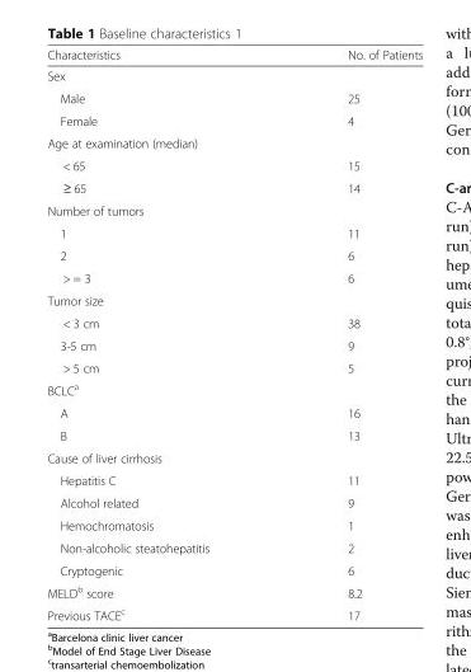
<table><thead><tr><td>Characteristics</td><td>No. of Patients</td></tr></thead><tbody><tr><td colspan="2">Sex</td></tr><tr><td>Male</td><td>25</td></tr><tr><td>Female</td><td>4</td></tr><tr><td colspan="2">Age at examination (median)</td></tr><tr><td>&lt; 65</td><td>15</td></tr><tr><td>≥ 65</td><td>14</td></tr><tr><td colspan="2">Number of tumors</td></tr><tr><td>1</td><td>11</td></tr><tr><td>2</td><td>6</td></tr><tr><td>&gt; = 3</td><td>6</td></tr><tr><td colspan="2">Tumor size</td></tr><tr><td>&lt; 3 cm</td><td>38</td></tr><tr><td>3-5 cm</td><td>9</td></tr><tr><td>&gt; 5 cm</td><td>5</td></tr><tr><td colspan="2">BCLC<sup>a</sup></td></tr><tr><td>A</td><td>16</td></tr><tr><td>B</td><td>13</td></tr><tr><td colspan="2">Cause of liver cirrhosis</td></tr><tr><td>Hepatitis C</td><td>11</td></tr><tr><td>Alcohol related</td><td>9</td></tr><tr><td>Hemochromatosis</td><td>1</td></tr><tr><td>Non-alcoholic steatohepatitis</td><td>2</td></tr><tr><td>Cryptogenic</td><td>6</td></tr><tr><td>MELD<sup>b</sup> score</td><td>8.2</td></tr><tr><td>Previous TACE<sup>c</sup></td><td>17</td></tr></tbody></table>